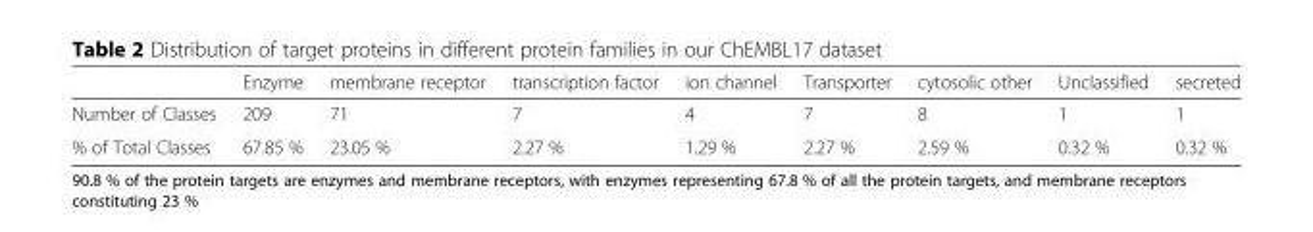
<table><thead><tr><td></td><td>Enzyme</td><td>membrane receptor</td><td>transcription factor</td><td>ion channel</td><td>Transporter</td><td>cytosolic other</td><td>Unclassified</td><td>secreted</td></tr></thead><tbody><tr><td>Number of Classes</td><td>209</td><td>71</td><td>7</td><td>4</td><td>7</td><td>8</td><td>1</td><td>1</td></tr><tr><td>% of Total Classes</td><td>67.85 %</td><td>23.05 %</td><td>2.27 %</td><td>1.29 %</td><td>2.27 %</td><td>2.59 %</td><td>0.32 %</td><td>0.32 %</td></tr></tbody></table>